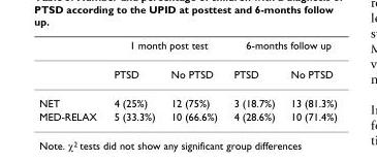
<table><thead><tr><td rowspan="2"></td><td colspan="2">1 month post test</td><td colspan="2">6-months follow up</td></tr><tr><td>PTSD</td><td>No PTSD</td><td>PTSD</td><td>No PTSD</td></tr></thead><tbody><tr><td>NET</td><td>4 (25%)</td><td>12 (75%)</td><td>3 (18.7%)</td><td>13 (81.3%)</td></tr><tr><td>MED-RELAX</td><td>5 (33.3%)</td><td>10 (66.6%)</td><td>4 (28.6%)</td><td>10 (71.4%)</td></tr></tbody></table>